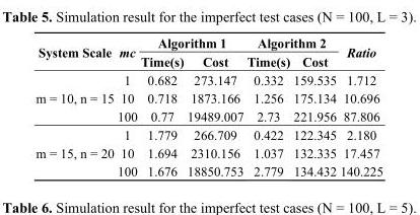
<table><thead><tr><td rowspan="2">System Scale</td><td rowspan="2">mc</td><td colspan="2">Algorithm 1</td><td colspan="2">Algorithm 2</td><td rowspan="2">Ratio</td></tr><tr><td>Time(s)</td><td>Cost</td><td>Time(s)</td><td>Cost</td></tr></thead><tbody><tr><td rowspan="3">m = 10, n = 15</td><td>1</td><td>0.682</td><td>273.147</td><td>0.332</td><td>159.535</td><td>1.712</td></tr><tr><td>10</td><td>0.718</td><td>1873.166</td><td>1.256</td><td>175.134</td><td>10.696</td></tr><tr><td>100</td><td>0.77</td><td>19489.007</td><td>2.73</td><td>221.956</td><td>87.806</td></tr><tr><td rowspan="3">m = 15, n = 20</td><td>1</td><td>1.779</td><td>266.709</td><td>0.422</td><td>122.345</td><td>2.180</td></tr><tr><td>10</td><td>1.694</td><td>2310.156</td><td>1.037</td><td>132.335</td><td>17.457</td></tr><tr><td>100</td><td>1.676</td><td>18850.753</td><td>2.779</td><td>134.432</td><td>140.225</td></tr></tbody></table>